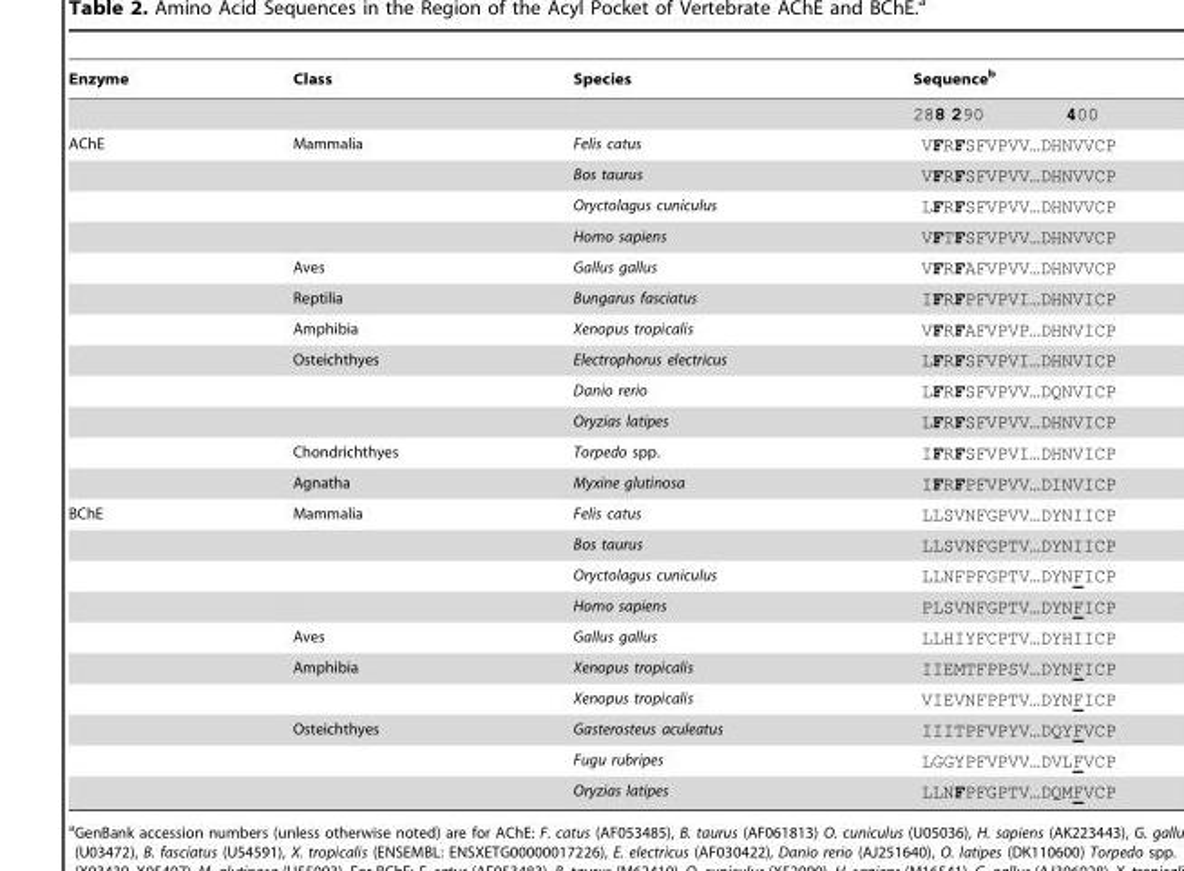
<table><thead><tr><td>Enzyme</td><td>Class</td><td>Species</td><td>Sequence<sup>b</sup></td></tr></thead><tbody><tr><td></td><td></td><td></td><td>288 290 400</td></tr><tr><td rowspan="12">AChE</td><td>Mammalia</td><td>Felis catus</td><td>VFRFSFVPVV…DHNVVCP</td></tr><tr><td></td><td>Bos taurus</td><td>VFRFSFVPVV…DHNVVCP</td></tr><tr><td></td><td>Oryctolagus cuniculus</td><td>LFRFSFVPVV…DHNVVCP</td></tr><tr><td></td><td>Homo sapiens</td><td>VFTFSFVPVV…DHNVVCP</td></tr><tr><td>Aves</td><td>Gallus gallus</td><td>VFRFAFVPVV…DHNVVCP</td></tr><tr><td>Reptilia</td><td>Bungarus fasciatus</td><td>IFRFPFVPVI…DHNVICP</td></tr><tr><td>Amphibia</td><td>Xenopus tropicalis</td><td>VFRFAFVPVP…DHNVICP</td></tr><tr><td>Osteichthyes</td><td>Electrophorus electricus</td><td>LFRFSFVPVI…DHNVICP</td></tr><tr><td></td><td>Danio rerio</td><td>LFRFSFVPVV…DQNVICP</td></tr><tr><td></td><td>Oryzias latipes</td><td>LFRFSFVPVV…DHNVICP</td></tr><tr><td>Chondrichthyes</td><td>Torpedo spp.</td><td>IFRFSFVPVI…DHNVICP</td></tr><tr><td>Agnatha</td><td>Myxine glutinosa</td><td>IFRFPFVPVV…DINVICP</td></tr><tr><td rowspan="10">BChE</td><td>Mammalia</td><td>Felis catus</td><td>LLSVNFGPVV…DYNIICP</td></tr><tr><td></td><td>Bos taurus</td><td>LLSVNFGPTV…DYNIICP</td></tr><tr><td></td><td>Oryctolagus cuniculus</td><td>LLNFPFGPTV…DYNFICP</td></tr><tr><td></td><td>Homo sapiens</td><td>PLSVNFGPTV…DYNFICP</td></tr><tr><td>Aves</td><td>Gallus gallus</td><td>LLHIYFCPTV…DYHIICP</td></tr><tr><td>Amphibia</td><td>Xenopus tropicalis</td><td>IIEMTFPPSV…DYNFICP</td></tr><tr><td></td><td>Xenopus tropicalis</td><td>VIEVNFPPTV…DYNFICP</td></tr><tr><td>Osteichthyes</td><td>Gasterosteus aculeatus</td><td>IIITPFVPYV…DQYFVCP</td></tr><tr><td></td><td>Fugu rubripes</td><td>LGGYPFVPVV…DVLFVCP</td></tr><tr><td></td><td>Oryzias latipes</td><td>LLNFPFGPTV…DQMFVCP</td></tr></tbody></table>